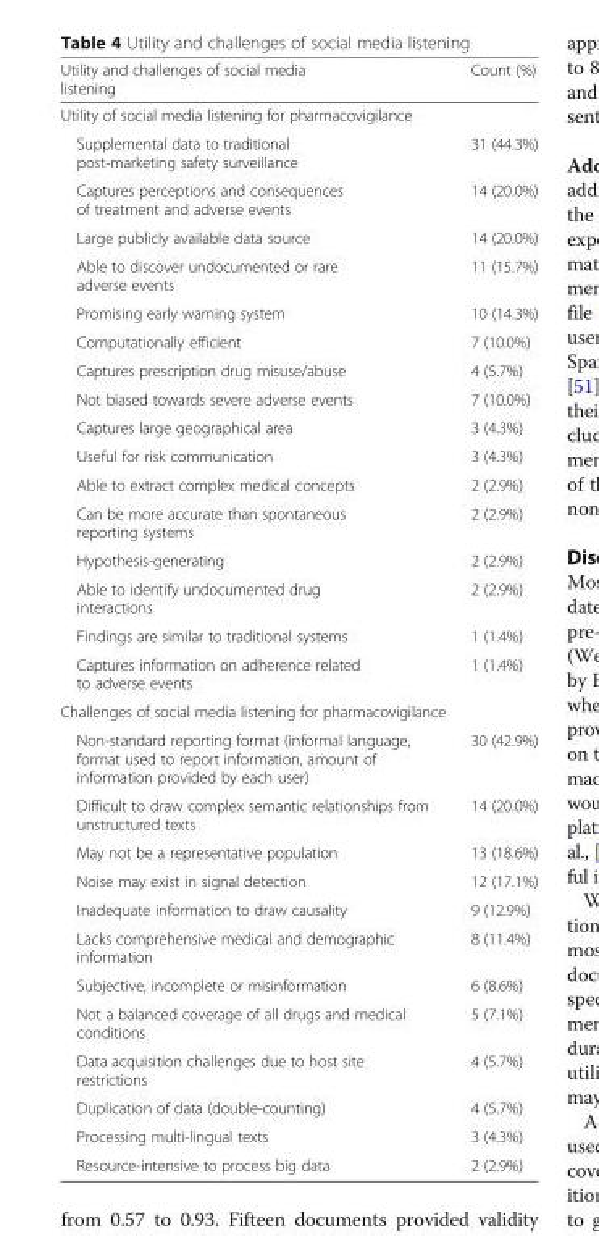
<table><thead><tr><td>Utility and challenges of social media listening</td><td>Count (%)</td></tr></thead><tbody><tr><td colspan="2">Utility of social media listening for pharmacovigilance</td></tr><tr><td>Supplemental data to traditional post-marketing safety surveillance</td><td>31 (44.3%)</td></tr><tr><td>Captures perceptions and consequences of treatment and adverse events</td><td>14 (20.0%)</td></tr><tr><td>Large publicly available data source</td><td>14 (20.0%)</td></tr><tr><td>Able to discover undocumented or rare adverse events</td><td>11 (15.7%)</td></tr><tr><td>Promising early warning system</td><td>10 (14.3%)</td></tr><tr><td>Computationally efficient</td><td>7 (10.0%)</td></tr><tr><td>Captures prescription drug misuse/abuse</td><td>4 (5.7%)</td></tr><tr><td>Not biased towards severe adverse events</td><td>7 (10.0%)</td></tr><tr><td>Captures large geographical area</td><td>3 (4.3%)</td></tr><tr><td>Useful for risk communication</td><td>3 (4.3%)</td></tr><tr><td>Able to extract complex medical concepts</td><td>2 (2.9%)</td></tr><tr><td>Can be more accurate than spontaneous reporting systems</td><td>2 (2.9%)</td></tr><tr><td>Hypothesis-generating</td><td>2 (2.9%)</td></tr><tr><td>Able to identify undocumented drug interactions</td><td>2 (2.9%)</td></tr><tr><td>Findings are similar to traditional systems</td><td>1 (1.4%)</td></tr><tr><td>Captures information on adherence related to adverse events</td><td>1 (1.4%)</td></tr><tr><td colspan="2">Challenges of social media listening for pharmacovigilance</td></tr><tr><td>Non-standard reporting format (informal language, format used to report information, amount of information provided by each user)</td><td>30 (42.9%)</td></tr><tr><td>Difficult to draw complex semantic relationships from unstructured texts</td><td>14 (20.0%)</td></tr><tr><td>May not be a representative population</td><td>13 (18.6%)</td></tr><tr><td>Noise may exist in signal detection</td><td>12 (17.1%)</td></tr><tr><td>Inadequate information to draw causality</td><td>9 (12.9%)</td></tr><tr><td>Lacks comprehensive medical and demographic information</td><td>8 (11.4%)</td></tr><tr><td>Subjective, incomplete or misinformation</td><td>6 (8.6%)</td></tr><tr><td>Not a balanced coverage of all drugs and medical conditions</td><td>5 (7.1%)</td></tr><tr><td>Data acquisition challenges due to host site restrictions</td><td>4 (5.7%)</td></tr><tr><td>Duplication of data (double-counting)</td><td>4 (5.7%)</td></tr><tr><td>Processing multi-lingual texts</td><td>3 (4.3%)</td></tr><tr><td>Resource-intensive to process big data</td><td>2 (2.9%)</td></tr></tbody></table>